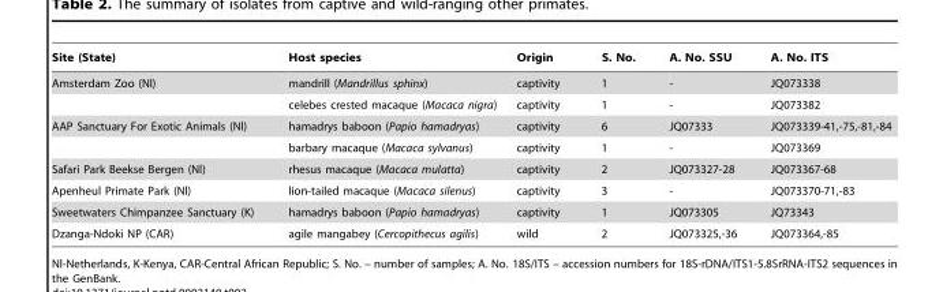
<table><thead><tr><td>Site (State)</td><td>Host species</td><td>Origin</td><td>S. No.</td><td>A. No. SSU</td><td>A. No. ITS</td></tr></thead><tbody><tr><td rowspan="2">Amsterdam Zoo (Nl)</td><td>mandrill (Mandrillus sphinx)</td><td>captivity</td><td>1</td><td>-</td><td>JQ073338</td></tr><tr><td>celebes crested macaque (Macaca nigra)</td><td>captivity</td><td>1</td><td>-</td><td>JQ073382</td></tr><tr><td rowspan="2">AAP Sanctuary For Exotic Animals (Nl)</td><td>hamadrys baboon (Papio hamadryas)</td><td>captivity</td><td>6</td><td>JQ07333</td><td>JQ073339-41,-75,-81,-84</td></tr><tr><td>barbary macaque (Macaca sylvanus)</td><td>captivity</td><td>1</td><td>-</td><td>JQ073369</td></tr><tr><td>Safari Park Beekse Bergen (Nl)</td><td>rhesus macaque (Macaca mulatta)</td><td>captivity</td><td>2</td><td>JQ073327-28</td><td>JQ073367-68</td></tr><tr><td>Apenheul Primate Park (Nl)</td><td>lion-tailed macaque (Macaca silenus)</td><td>captivity</td><td>3</td><td>-</td><td>JQ073370-71,-83</td></tr><tr><td>Sweetwaters Chimpanzee Sanctuary (K)</td><td>hamadrys baboon (Papio hamadryas)</td><td>captivity</td><td>1</td><td>JQ073305</td><td>JQ73343</td></tr><tr><td>Dzanga-Ndoki NP (CAR)</td><td>agile mangabey (Cercopithecus agilis)</td><td>wild</td><td>2</td><td>JQ073325,-36</td><td>JQ073364,-85</td></tr></tbody></table>